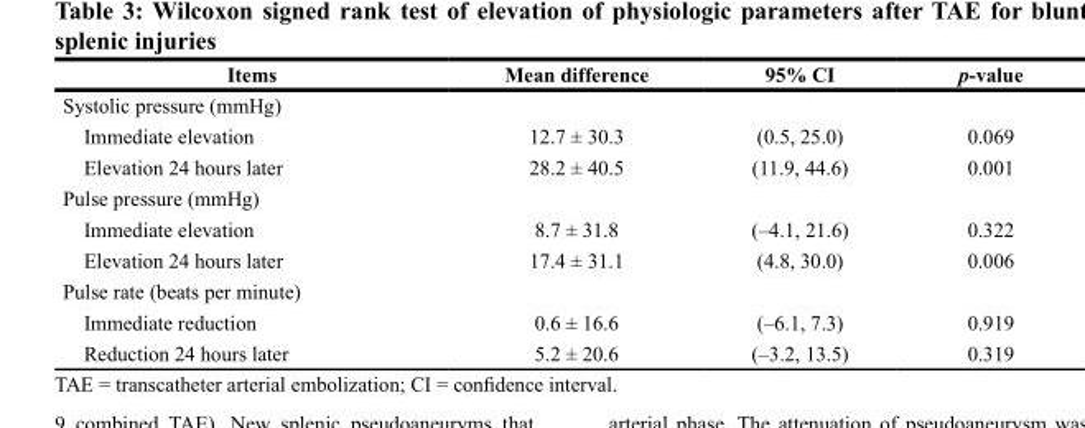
<table><thead><tr><td>Items</td><td>Mean difference</td><td>95% CI</td><td>p-value</td></tr></thead><tbody><tr><td colspan="4">Systolic pressure (mmHg)</td></tr><tr><td>Immediate elevation</td><td>12.7 ± 30.3</td><td>(0.5, 25.0)</td><td>0.069</td></tr><tr><td>Elevation 24 hours later</td><td>28.2 ± 40.5</td><td>(11.9, 44.6)</td><td>0.001</td></tr><tr><td colspan="4">Pulse pressure (mmHg)</td></tr><tr><td>Immediate elevation</td><td>8.7 ± 31.8</td><td>(–4.1, 21.6)</td><td>0.322</td></tr><tr><td>Elevation 24 hours later</td><td>17.4 ± 31.1</td><td>(4.8, 30.0)</td><td>0.006</td></tr><tr><td colspan="4">Pulse rate (beats per minute)</td></tr><tr><td>Immediate reduction</td><td>0.6 ± 16.6</td><td>(–6.1, 7.3)</td><td>0.919</td></tr><tr><td>Reduction 24 hours later</td><td>5.2 ± 20.6</td><td>(–3.2, 13.5)</td><td>0.319</td></tr></tbody></table>